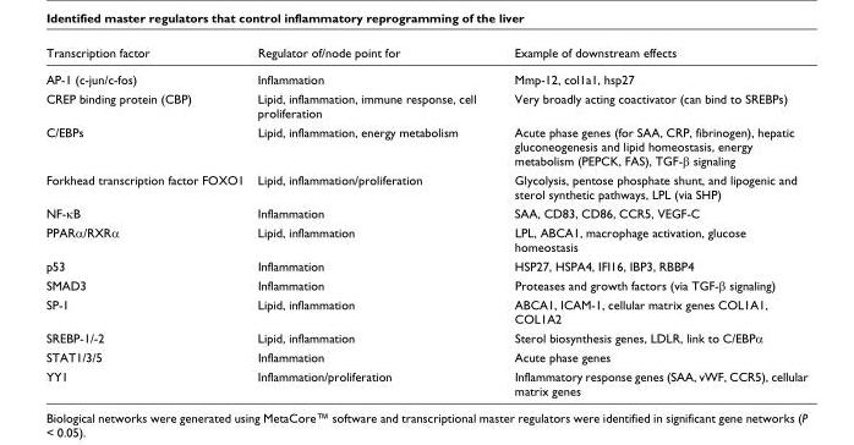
<table><thead><tr><td>Transcription factor</td><td>Regulator of/node point for</td><td>Example of downstream effects</td></tr></thead><tbody><tr><td>AP-1 (c-jun/c-fos)</td><td>Inflammation</td><td>Mmp-12, col1a1, hsp27</td></tr><tr><td>CREP binding protein (CBP)</td><td>Lipid, inflammation, immune response, cell proliferation</td><td>Very broadly acting coactivator (can bind to SREBPs)</td></tr><tr><td>C/EBPs</td><td>Lipid, inflammation, energy metabolism</td><td>Acute phase genes (for SAA, CRP, fibrinogen), hepatic gluconeogenesis and lipid homeostasis, energy metabolism (PEPCK, FAS), TGF-β signaling</td></tr><tr><td>Forkhead transcription factor FOXO1</td><td>Lipid, inflammation/proliferation</td><td>Glycolysis, pentose phosphate shunt, and lipogenic and sterol synthetic pathways, LPL (via SHP)</td></tr><tr><td>NF-κB</td><td>Inflammation</td><td>SAA, CD83, CD86, CCR5, VEGF-C</td></tr><tr><td>PPARα/RXRα</td><td>Lipid, inflammation</td><td>LPL, ABCA1, macrophage activation, glucose homeostasis</td></tr><tr><td>p53</td><td>Inflammation</td><td>HSP27, HSPA4, IFI16, IBP3, RBBP4</td></tr><tr><td>SMAD3</td><td>Inflammation</td><td>Proteases and growth factors (via TGF-β signaling)</td></tr><tr><td>SP-1</td><td>Lipid, inflammation</td><td>ABCA1, ICAM-1, cellular matrix genes COL1A1, COL1A2</td></tr><tr><td>SREBP-1/-2</td><td>Lipid, inflammation</td><td>Sterol biosynthesis genes, LDLR, link to C/EBPα</td></tr><tr><td>STAT1/3/5</td><td>Inflammation</td><td>Acute phase genes</td></tr><tr><td>YY1</td><td>Inflammation/proliferation</td><td>Inflammatory response genes (SAA, vWF, CCR5), cellular matrix genes</td></tr></tbody></table>